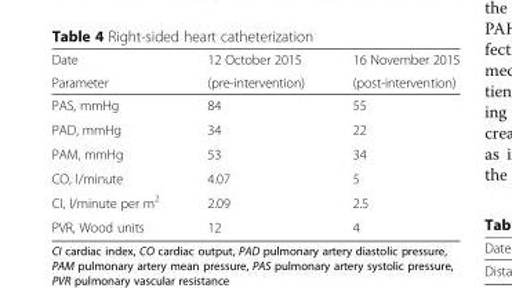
<table><thead><tr><td rowspan="2">Date Parameter</td><td rowspan="2">12 October 2015 (pre-intervention)</td><td rowspan="2">16 November 2015 (post-intervention)</td></tr><tr></tr></thead><tbody><tr><td>PAS, mmHg</td><td>84</td><td>55</td></tr><tr><td>PAD, mmHg</td><td>34</td><td>22</td></tr><tr><td>PAM, mmHg</td><td>53</td><td>34</td></tr><tr><td>CO, l/minute</td><td>4.07</td><td>5</td></tr><tr><td>CI, l/minute per m<sup>2</sup></td><td>2.09</td><td>2.5</td></tr><tr><td>PVR, Wood units</td><td>12</td><td>4</td></tr></tbody></table>